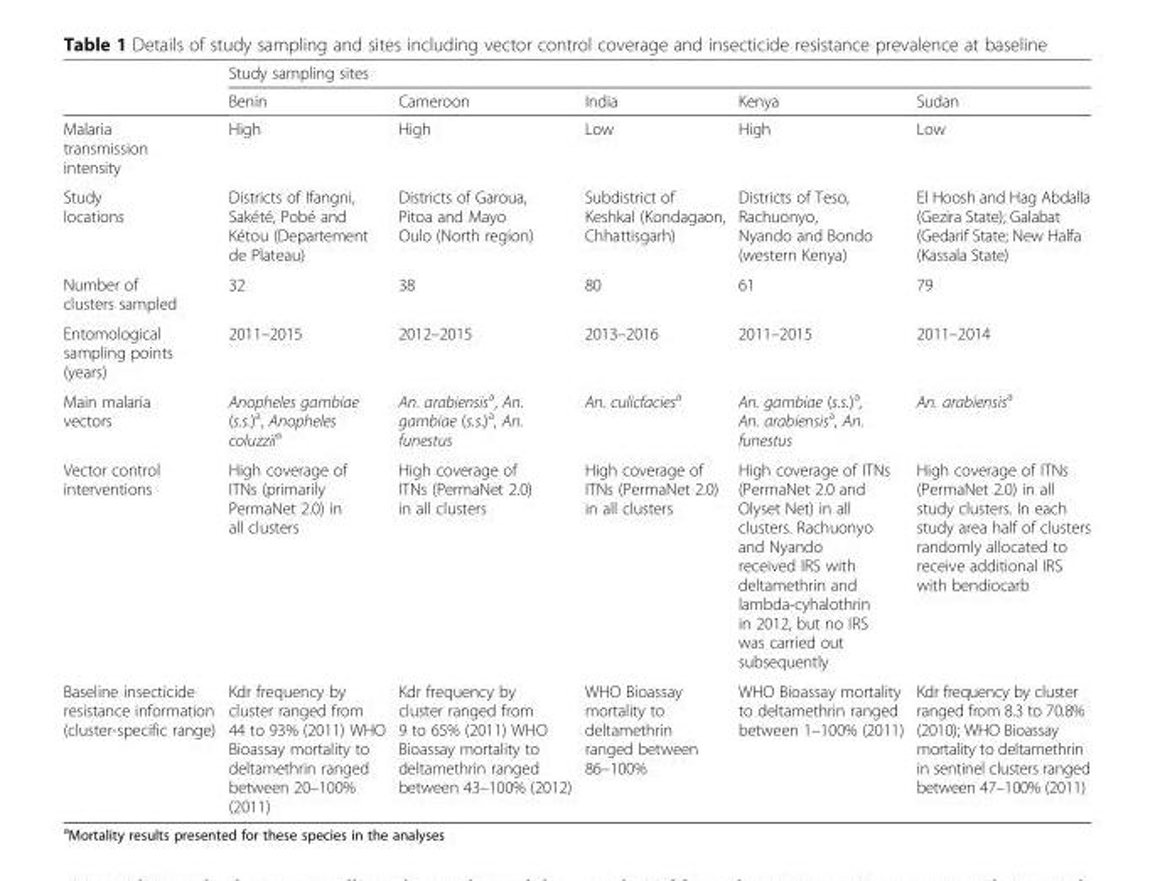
<table><thead><tr><td rowspan="2"></td><td colspan="5">Study sampling sites</td></tr><tr><td>Benin</td><td>Cameroon</td><td>India</td><td>Kenya</td><td>Sudan</td></tr></thead><tbody><tr><td>Malaria transmission intensity</td><td>High</td><td>High</td><td>Low</td><td>High</td><td>Low</td></tr><tr><td>Study locations</td><td>Districts of Ifangni, Sakété, Pobé and Kétou (Departement de Plateau)</td><td>Districts of Garoua, Pitoa and Mayo Oulo (North region)</td><td>Subdistrict of Keshkal (Kondagaon, Chhattisgarh)</td><td>Districts of Teso, Rachuonyo, Nyando and Bondo (western Kenya)</td><td>El Hoosh and Hag Abdalla (Gezira State); Galabat (Gedarif State; New Halfa (Kassala State)</td></tr><tr><td>Number of clusters sampled</td><td>32</td><td>38</td><td>80</td><td>61</td><td>79</td></tr><tr><td>Entomological sampling points (years)</td><td>2011–2015</td><td>2012–2015</td><td>2013–2016</td><td>2011–2015</td><td>2011–2014</td></tr><tr><td>Main malaria vectors</td><td>Anopheles gambiae (s.s.)<sup>a</sup>, Anopheles coluzzii<sup>a</sup></td><td>An. arabiensis<sup>a</sup>, An. gambiae (s.s.)<sup>a</sup>, An. funestus</td><td>An. culicfacies<sup>a</sup></td><td>An. gambiae (s.s.)<sup>a</sup>, An. arabiensis<sup>a</sup>, An. funestus</td><td>An. arabiensis<sup>a</sup></td></tr><tr><td>Vector control interventions</td><td>High coverage of ITNs (primarily PermaNet 2.0) in all clusters</td><td>High coverage of ITNs (PermaNet 2.0) in all clusters</td><td>High coverage of ITNs (PermaNet 2.0) in all clusters</td><td>High coverage of ITNs (PermaNet 2.0 and Olyset Net) in all clusters. Rachuonyo and Nyando received IRS with deltamethrin and lambda-cyhalothrin in 2012, but no IRS was carried out subsequently</td><td>High coverage of ITNs (PermaNet 2.0) in all study clusters. In each study area half of clusters randomly allocated to receive additional IRS with bendiocarb</td></tr><tr><td>Baseline insecticide resistance information (cluster-specific range)</td><td>Kdr frequency by cluster ranged from 44 to 93% (2011) WHO Bioassay mortality to deltamethrin ranged between 20–100% (2011)</td><td>Kdr frequency by cluster ranged from 9 to 65% (2011) WHO Bioassay mortality to deltamethrin ranged between 43–100% (2012)</td><td>WHO Bioassay mortality to deltamethrin ranged between 86–100%</td><td>WHO Bioassay mortality to deltamethrin ranged between 1–100% (2011)</td><td>Kdr frequency by cluster ranged from 8.3 to 70.8% (2010); WHO Bioassay mortality to deltamethrin in sentinel clusters ranged between 47–100% (2011)</td></tr></tbody></table>